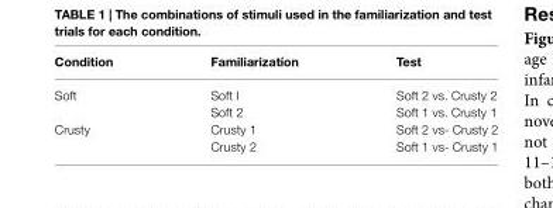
<table><thead><tr><td>Condition</td><td>Familiarizatíon</td><td>Test</td></tr></thead><tbody><tr><td rowspan="2">Soft</td><td>Soft l</td><td>Soft 2 vs. Crusty 2</td></tr><tr><td>Soft 2</td><td>Soft 1 vs. Crusty 1</td></tr><tr><td rowspan="2">Crusty</td><td>Crusty 1</td><td>Soft 2 vs- Crusty 2</td></tr><tr><td>Crusty 2</td><td>Soft 1 vs- Crusty 1</td></tr></tbody></table>